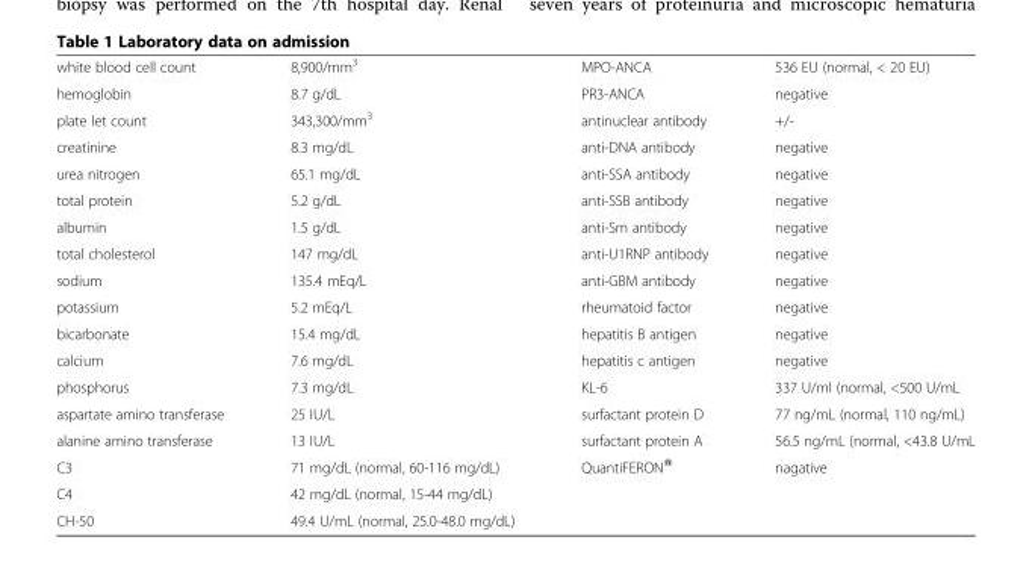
<table><tbody><tr><td>white blood cell count</td><td>8,900/mm<sup>3</sup></td><td>MPO-ANCA</td><td>536 EU (normal, &lt; 20 EU)</td></tr><tr><td>hemoglobin</td><td>8.7 g/dL</td><td>PR3-ANCA</td><td>negative</td></tr><tr><td>plate let count</td><td>343,300/mm<sup>3</sup></td><td>antinuclear antibody</td><td>+/-</td></tr><tr><td>creatinine</td><td>8.3 mg/dL</td><td>anti-DNA antibody</td><td>negative</td></tr><tr><td>urea nitrogen</td><td>65.1 mg/dL</td><td>anti-SSA antibody</td><td>negative</td></tr><tr><td>total protein</td><td>5.2 g/dL</td><td>anti-SSB antibody</td><td>negative</td></tr><tr><td>albumin</td><td>1.5 g/dL</td><td>anti-Sm antibody</td><td>negative</td></tr><tr><td>total cholesterol</td><td>147 mg/dL</td><td>anti-U1RNP antibody</td><td>negative</td></tr><tr><td>sodium</td><td>135.4 mEq/L</td><td>anti-GBM antibody</td><td>negative</td></tr><tr><td>potassium</td><td>5.2 mEq/L</td><td>rheumatoid factor</td><td>negative</td></tr><tr><td>bicarbonate</td><td>15.4 mg/dL</td><td>hepatitis B antigen</td><td>negative</td></tr><tr><td>calcium</td><td>7.6 mg/dL</td><td>hepatitis c antigen</td><td>negative</td></tr><tr><td>phosphorus</td><td>7.3 mg/dL</td><td>KL-6</td><td>337 U/ml (normal, &lt;500 U/mL</td></tr><tr><td>aspartate amino transferase</td><td>25 IU/L</td><td>surfactant protein D</td><td>77 ng/mL (normal, 110 ng/mL)</td></tr><tr><td>alanine amino transferase</td><td>13 IU/L</td><td>surfactant protein A</td><td>56.5 ng/mL (normal, &lt;43.8 U/mL</td></tr><tr><td>C3</td><td>71 mg/dL (normal, 60-116 mg/dL)</td><td>QuantiFERON®</td><td>nagative</td></tr><tr><td>C4</td><td>42 mg/dL (normal, 15-44 mg/dL)</td><td></td><td></td></tr><tr><td>CH-50</td><td>49.4 U/mL (normal, 25.0-48.0 mg/dL)</td><td></td><td></td></tr></tbody></table>